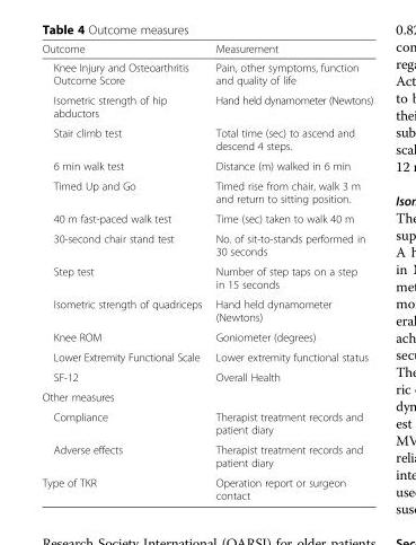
<table><thead><tr><td>Outcome</td><td>Measurement</td></tr></thead><tbody><tr><td>Knee Injury and Osteoarthritis Outcome Score</td><td>Pain, other symptoms, function and quality of life</td></tr><tr><td>Isometric strength of hip abductors</td><td>Hand held dynamometer (Newtons)</td></tr><tr><td>Stair climb test</td><td>Total time (sec) to ascend and descend 4 steps.</td></tr><tr><td>6 min walk test</td><td>Distance (m) walked in 6 min</td></tr><tr><td>Timed Up and Go</td><td>Timed rise from chair, walk 3 m and return to sitting position.</td></tr><tr><td>40 m fast-paced walk test</td><td>Time (sec) taken to walk 40 m</td></tr><tr><td>30-second chair stand test</td><td>No. of sit-to-stands performed in 30 seconds</td></tr><tr><td>Step test</td><td>Number of step taps on a step in 15 seconds</td></tr><tr><td>Isometric strength of quadriceps</td><td>Hand held dynamometer (Newtons)</td></tr><tr><td>Knee ROM</td><td>Goniometer (degrees)</td></tr><tr><td>Lower Extremity Functional Scale</td><td>Lower extremity functional status</td></tr><tr><td>SF-12</td><td>Overall Health</td></tr><tr><td colspan="2">Other measures</td></tr><tr><td>Compliance</td><td>Therapist treatment records and patient diary</td></tr><tr><td>Adverse effects</td><td>Therapist treatment records and patient diary</td></tr><tr><td>Type of TKR</td><td>Operation report or surgeon contact</td></tr></tbody></table>